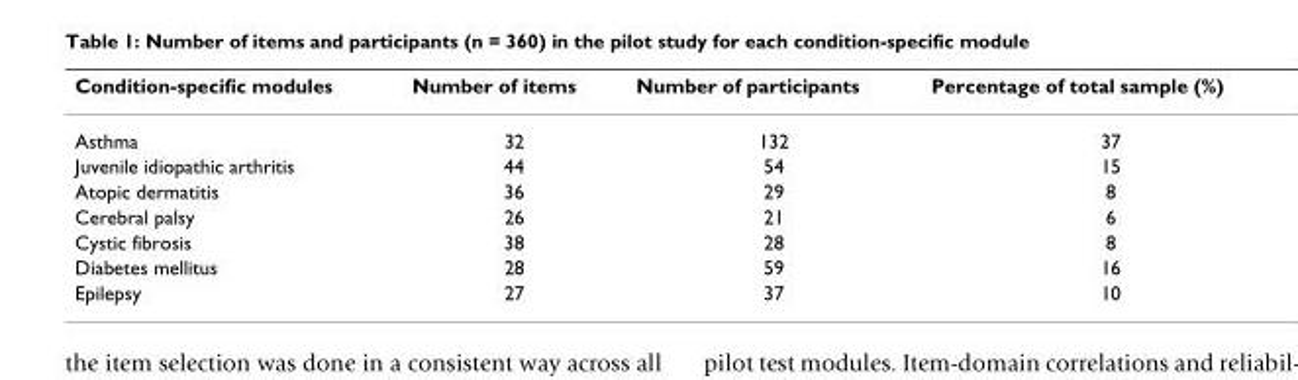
<table><thead><tr><td>Condition-specific modules</td><td>Number of items</td><td>Number of participants</td><td>Percentage of total sample (%)</td></tr></thead><tbody><tr><td>Asthma</td><td>32</td><td>132</td><td>37</td></tr><tr><td>Juvenile idiopathic arthritis</td><td>44</td><td>54</td><td>15</td></tr><tr><td>Atopic dermatitis</td><td>36</td><td>29</td><td>8</td></tr><tr><td>Cerebral palsy</td><td>26</td><td>21</td><td>6</td></tr><tr><td>Cystic fibrosis</td><td>38</td><td>28</td><td>8</td></tr><tr><td>Diabetes mellitus</td><td>28</td><td>59</td><td>16</td></tr><tr><td>Epilepsy</td><td>27</td><td>37</td><td>10</td></tr></tbody></table>